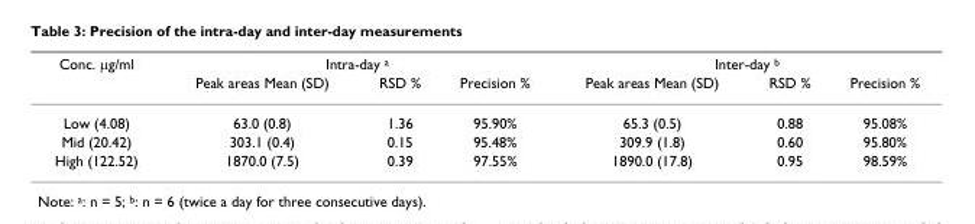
<table><thead><tr><td rowspan="2">Conc. μg/ml</td><td colspan="3">Intra-day <sup>a</sup></td><td colspan="3">Inter-day <sup>b</sup></td></tr><tr><td>Peak areas Mean (SD)</td><td>RSD %</td><td>Precision %</td><td>Peak areas Mean (SD)</td><td>RSD %</td><td>Precision %</td></tr></thead><tbody><tr><td>Low (4.08)</td><td>63.0 (0.8)</td><td>1.36</td><td>95.90%</td><td>65.3 (0.5)</td><td>0.88</td><td>95.08%</td></tr><tr><td>Mid (20.42)</td><td>303.1 (0.4)</td><td>0.15</td><td>95.48%</td><td>309.9 (1.8)</td><td>0.60</td><td>95.80%</td></tr><tr><td>High (122.52)</td><td>1870.0 (7.5)</td><td>0.39</td><td>97.55%</td><td>1890.0 (17.8)</td><td>0.95</td><td>98.59%</td></tr></tbody></table>